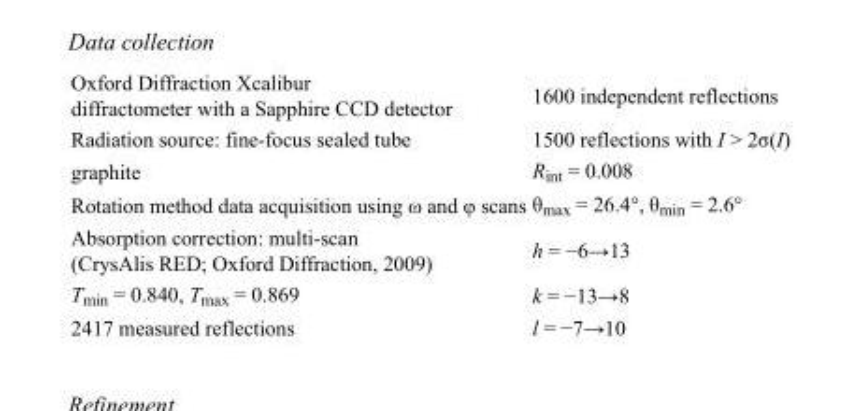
<table><tbody><tr><td>Oxford Diffraction Xcalibur diffractometer with a Sapphire CCD detector</td><td>1600 independent reflections</td></tr><tr><td>Radiation source: fine-focus sealed tube</td><td>1500 reflections with I &gt; 2σ(I)</td></tr><tr><td>graphite</td><td>R<sub>int</sub> = 0.008</td></tr><tr><td>Rotation method data acquisition using ω and φ scans</td><td>θ<sub>max</sub> = 26.4°, θ<sub>min</sub> = 2.6°</td></tr><tr><td>Absorption correction: multi-scan (CrysAlis RED; Oxford Diffraction, 2009)</td><td>h = −6→13</td></tr><tr><td>T<sub>min</sub> = 0.840, T<sub>max</sub> = 0.869</td><td>k = −13→8</td></tr><tr><td>2417 measured reflections</td><td>l = −7→10</td></tr></tbody></table>